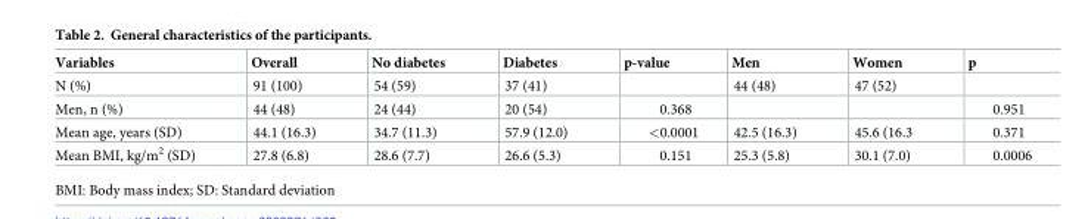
<table><thead><tr><td>Variables</td><td>Overall</td><td>No diabetes</td><td>Diabetes</td><td>p-value</td><td>Men</td><td>Women</td><td>p</td></tr></thead><tbody><tr><td>N (%)</td><td>91 (100)</td><td>54 (59)</td><td>37 (41)</td><td></td><td>44 (48)</td><td>47 (52)</td><td></td></tr><tr><td>Men, n (%)</td><td>44 (48)</td><td>24 (44)</td><td>20 (54)</td><td>0.368</td><td></td><td></td><td>0.951</td></tr><tr><td>Mean age, years (SD)</td><td>44.1 (16.3)</td><td>34.7 (11.3)</td><td>57.9 (12.0)</td><td>&lt;0.0001</td><td>42.5 (16.3)</td><td>45.6 (16.3</td><td>0.371</td></tr><tr><td>Mean BMI, kg/m<sup>2</sup> (SD)</td><td>27.8 (6.8)</td><td>28.6 (7.7)</td><td>26.6 (5.3)</td><td>0.151</td><td>25.3 (5.8)</td><td>30.1 (7.0)</td><td>0.0006</td></tr></tbody></table>